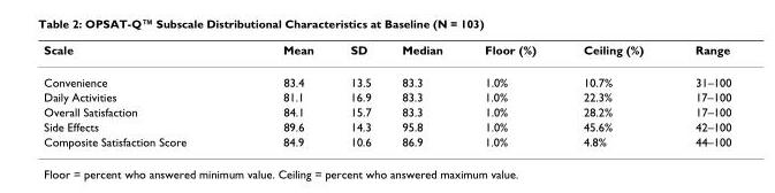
<table><thead><tr><td>Scale</td><td>Mean</td><td>SD</td><td>Median</td><td>Floor (%)</td><td>Ceiling (%)</td><td>Range</td></tr></thead><tbody><tr><td>Convenience</td><td>83.4</td><td>13.5</td><td>83.3</td><td>1.0%</td><td>10.7%</td><td>31–100</td></tr><tr><td>Daily Activities</td><td>81.1</td><td>16.9</td><td>83.3</td><td>1.0%</td><td>22.3%</td><td>17–100</td></tr><tr><td>Overall Satisfaction</td><td>84.1</td><td>15.7</td><td>83.3</td><td>1.0%</td><td>28.2%</td><td>17–100</td></tr><tr><td>Side Effects</td><td>89.6</td><td>14.3</td><td>95.8</td><td>1.0%</td><td>45.6%</td><td>42–100</td></tr><tr><td>Composite Satisfaction Score</td><td>84.9</td><td>10.6</td><td>86.9</td><td>1.0%</td><td>4.8%</td><td>44–100</td></tr></tbody></table>